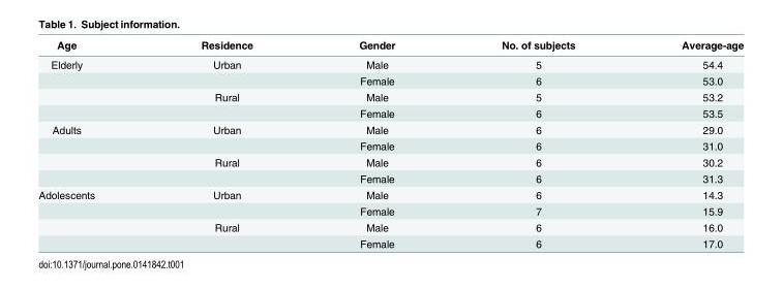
<table><thead><tr><td>Age</td><td>Residence</td><td>Gender</td><td>No. of subjects</td><td>Average-age</td></tr></thead><tbody><tr><td rowspan="4">Elderly</td><td>Urban</td><td>Male</td><td>5</td><td>54.4</td></tr><tr><td></td><td>Female</td><td>6</td><td>53.0</td></tr><tr><td>Rural</td><td>Male</td><td>5</td><td>53.2</td></tr><tr><td></td><td>Female</td><td>6</td><td>53.5</td></tr><tr><td rowspan="4">Adults</td><td>Urban</td><td>Male</td><td>6</td><td>29.0</td></tr><tr><td></td><td>Female</td><td>6</td><td>31.0</td></tr><tr><td>Rural</td><td>Male</td><td>6</td><td>30.2</td></tr><tr><td></td><td>Female</td><td>6</td><td>31.3</td></tr><tr><td rowspan="4">Adolescents</td><td>Urban</td><td>Male</td><td>6</td><td>14.3</td></tr><tr><td></td><td>Female</td><td>7</td><td>15.9</td></tr><tr><td>Rural</td><td>Male</td><td>6</td><td>16.0</td></tr><tr><td></td><td>Female</td><td>6</td><td>17.0</td></tr></tbody></table>